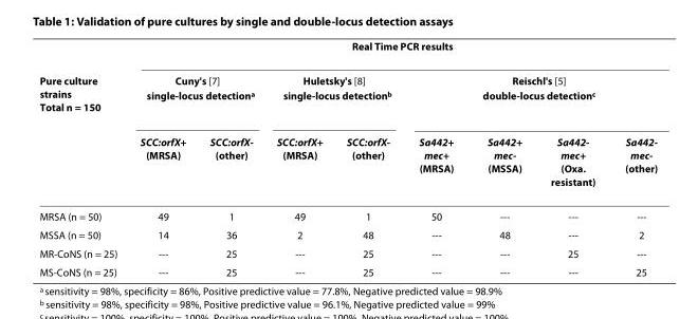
<table><thead><tr><td rowspan="3">Pure culture strains Total n = 150</td><td colspan="8">Real Time PCR results</td></tr><tr><td colspan="2">Cuny&#x27;s [7] single-locus detection<sup>a</sup></td><td colspan="2">Huletsky&#x27;s [8] single-locus detection<sup>b</sup></td><td colspan="4">Reischl&#x27;s [5] double-locus detection<sup>c</sup></td></tr><tr><td>SCC:orfX+ (MRSA)</td><td>SCC:orfX- (other)</td><td>SCC:orfX+ (MRSA)</td><td>SCC:orfX- (other)</td><td>Sa442+ mec+ (MRSA)</td><td>Sa442+ mec- (MSSA)</td><td>Sa442- mec+ (Oxa. resistant)</td><td>Sa442- mec- (other)</td></tr></thead><tbody><tr><td>MRSA (n = 50)</td><td>49</td><td>1</td><td>49</td><td>1</td><td>50</td><td>---</td><td>---</td><td>---</td></tr><tr><td>MSSA (n = 50)</td><td>14</td><td>36</td><td>2</td><td>48</td><td>---</td><td>48</td><td>---</td><td>2</td></tr><tr><td>MR-CoNS (n = 25)</td><td>---</td><td>25</td><td>---</td><td>25</td><td>---</td><td>---</td><td>25</td><td>---</td></tr><tr><td>MS-CoNS (n = 25)</td><td>---</td><td>25</td><td>---</td><td>25</td><td>---</td><td>---</td><td>---</td><td>25</td></tr></tbody></table>